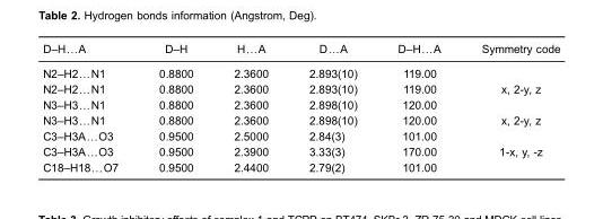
<table><thead><tr><td>D–H…A</td><td>D–H</td><td>H…A</td><td>D…A</td><td>D–H…A</td><td>Symmetry code</td></tr></thead><tbody><tr><td>N2–H2…N1</td><td>0.8800</td><td>2.3600</td><td>2.893(10)</td><td>119.00</td><td></td></tr><tr><td>N2–H2…N1</td><td>0.8800</td><td>2.3600</td><td>2.893(10)</td><td>119.00</td><td>x, 2-y, z</td></tr><tr><td>N3–H3…N1</td><td>0.8800</td><td>2.3600</td><td>2.898(10)</td><td>120.00</td><td></td></tr><tr><td>N3–H3…N1</td><td>0.8800</td><td>2.3600</td><td>2.898(10)</td><td>120.00</td><td>x, 2-y, z</td></tr><tr><td>C3–H3A…O3</td><td>0.9500</td><td>2.5000</td><td>2.84(3)</td><td>101.00</td><td></td></tr><tr><td>C3–H3A…O3</td><td>0.9500</td><td>2.3900</td><td>3.33(3)</td><td>170.00</td><td>1-x, y, -z</td></tr><tr><td>C18–H18…O7</td><td>0.9500</td><td>2.4400</td><td>2.79(2)</td><td>101.00</td><td></td></tr></tbody></table>